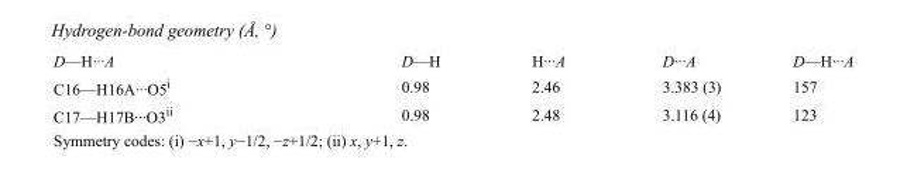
<table><tbody><tr><td>D—H···A</td><td>D—H</td><td>H···A</td><td>D···A</td><td>D—H···A</td></tr><tr><td>C16—H16A···O5<sup>i</sup></td><td>0.98</td><td>2.46</td><td>3.383 (3)</td><td>157</td></tr><tr><td>C17—H17B···O3<sup>ii</sup></td><td>0.98</td><td>2.48</td><td>3.116 (4)</td><td>123</td></tr></tbody></table>